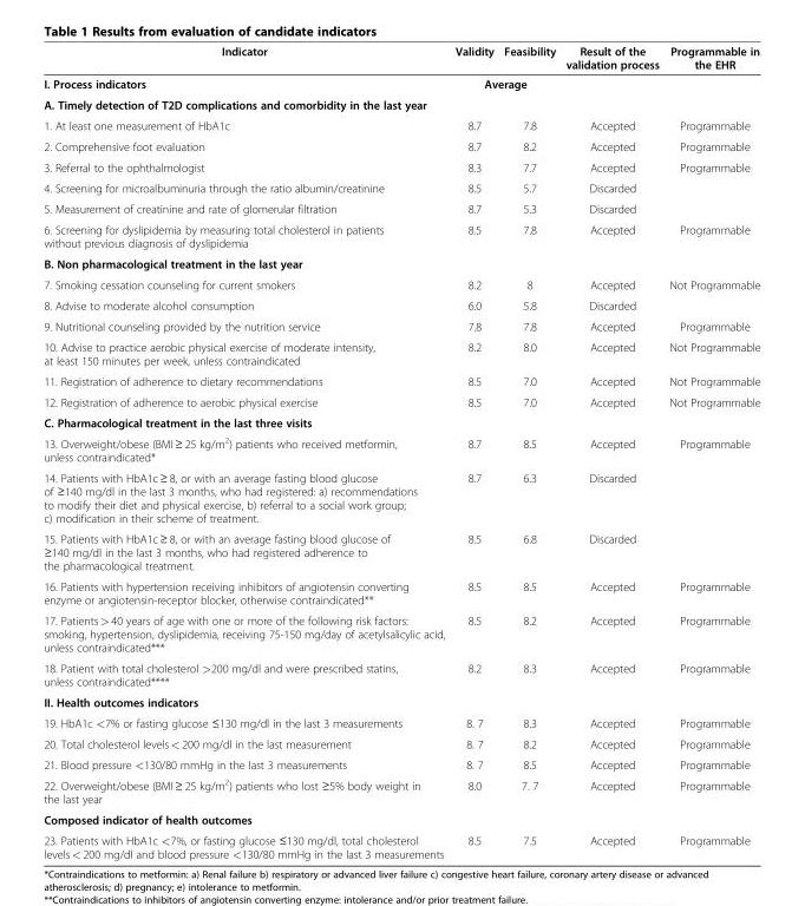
<table><thead><tr><td>Indicator</td><td>Validity</td><td>Feasibility</td><td>Result of the validation process</td><td>Programmable in the EHR</td></tr></thead><tbody><tr><td>I. Process indicators</td><td colspan="2">Average</td><td></td><td></td></tr><tr><td colspan="5">A. Timely detection of T2D complications and comorbidity in the last year</td></tr><tr><td>1. At least one measurement of HbA1c</td><td>8.7</td><td>7.8</td><td>Accepted</td><td>Programmable</td></tr><tr><td>2. Comprehensive foot evaluation</td><td>8.7</td><td>8.2</td><td>Accepted</td><td>Programmable</td></tr><tr><td>3. Referral to the ophthalmologist</td><td>8.3</td><td>7.7</td><td>Accepted</td><td>Programmable</td></tr><tr><td>4. Screening for microalbuminuria through the ratio albumin/creatinine</td><td>8.5</td><td>5.7</td><td>Discarded</td><td></td></tr><tr><td>5. Measurement of creatinine and rate of glomerular filtration</td><td>8.7</td><td>5.3</td><td>Discarded</td><td></td></tr><tr><td>6. Screening for dyslipidemia by measuring total cholesterol in patients without previous diagnosis of dyslipidemia</td><td>8.5</td><td>7.8</td><td>Accepted</td><td>Programmable</td></tr><tr><td colspan="5">B. Non pharmacological treatment in the last year</td></tr><tr><td>7. Smoking cessation counseling for current smokers</td><td>8.2</td><td>8</td><td>Accepted</td><td>Not Programmable</td></tr><tr><td>8. Advise to moderate alcohol consumption</td><td>6.0</td><td>5.8</td><td>Discarded</td><td></td></tr><tr><td>9. Nutritional counseling provided by the nutrition service</td><td>7.8</td><td>7.8</td><td>Accepted</td><td>Programmable</td></tr><tr><td>10. Advise to practice aerobic physical exercise of moderate intensity, at least 150 minutes per week, unless contraindicated</td><td>8.2</td><td>8.0</td><td>Accepted</td><td>Not Programmable</td></tr><tr><td>11. Registration of adherence to dietary recommendations</td><td>8.5</td><td>7.0</td><td>Accepted</td><td>Not Programmable</td></tr><tr><td>12. Registration of adherence to aerobic physical exercise</td><td>8.5</td><td>7.0</td><td>Accepted</td><td>Not Programmable</td></tr><tr><td colspan="5">C. Pharmacological treatment in the last three visits</td></tr><tr><td>13. Overweight/obese (BMI ≥ 25 kg/m<sup>2</sup>) patients who received metformin, unless contraindicated*</td><td>8.7</td><td>8.5</td><td>Accepted</td><td>Programmable</td></tr><tr><td>14. Patients with HbA1c ≥ 8, or with an average fasting blood glucose of ≥140 mg/dl in the last 3 months, who had registered: a) recommendations to modify their diet and physical exercise, b) referral to a social work group; c) modification in their scheme of treatment.</td><td>8.7</td><td>6.3</td><td>Discarded</td><td></td></tr><tr><td>15. Patients with HbA1c ≥ 8, or with an average fasting blood glucose of ≥140 mg/dl in the last 3 months, who had registered adherence to the pharmacological treatment.</td><td>8.5</td><td>6.8</td><td>Discarded</td><td></td></tr><tr><td>16. Patients with hypertension receiving inhibitors of angiotensin converting enzyme or angiotensin-receptor blocker, otherwise contraindicated**</td><td>8.5</td><td>8.5</td><td>Accepted</td><td>Programmable</td></tr><tr><td>17. Patients &gt; 40 years of age with one or more of the following risk factors: smoking, hypertension, dyslipidemia, receiving 75-150 mg/day of acetylsalicylic acid, unless contraindicated***</td><td>8.5</td><td>8.2</td><td>Accepted</td><td>Programmable</td></tr><tr><td>18. Patient with total cholesterol &gt;200 mg/dl and were prescribed statins, unless contraindicated****</td><td>8.2</td><td>8.3</td><td>Accepted</td><td>Programmable</td></tr><tr><td colspan="5">II. Health outcomes indicators</td></tr><tr><td>19. HbA1c &lt;7% or fasting glucose ≤130 mg/dl in the last 3 measurements</td><td>8. 7</td><td>8.3</td><td>Accepted</td><td>Programmable</td></tr><tr><td>20. Total cholesterol levels &lt; 200 mg/dl in the last measurement</td><td>8. 7</td><td>8.2</td><td>Accepted</td><td>Programmable</td></tr><tr><td>21. Blood pressure &lt;130/80 mmHg in the last 3 measurements</td><td>8. 7</td><td>8.5</td><td>Accepted</td><td>Programmable</td></tr><tr><td>22. Overweight/obese (BMI ≥ 25 kg/m<sup>2</sup>) patients who lost ≥5% body weight in the last year</td><td>8.0</td><td>7. 7</td><td>Accepted</td><td>Programmable</td></tr><tr><td colspan="5">Composed indicator of health outcomes</td></tr><tr><td>23. Patients with HbA1c &lt;7%, or fasting glucose ≤130 mg/dl, total cholesterol levels &lt; 200 mg/dl and blood pressure &lt;130/80 mmHg in the last 3 measurements</td><td>8.5</td><td>7.5</td><td>Accepted</td><td>Programmable</td></tr></tbody></table>